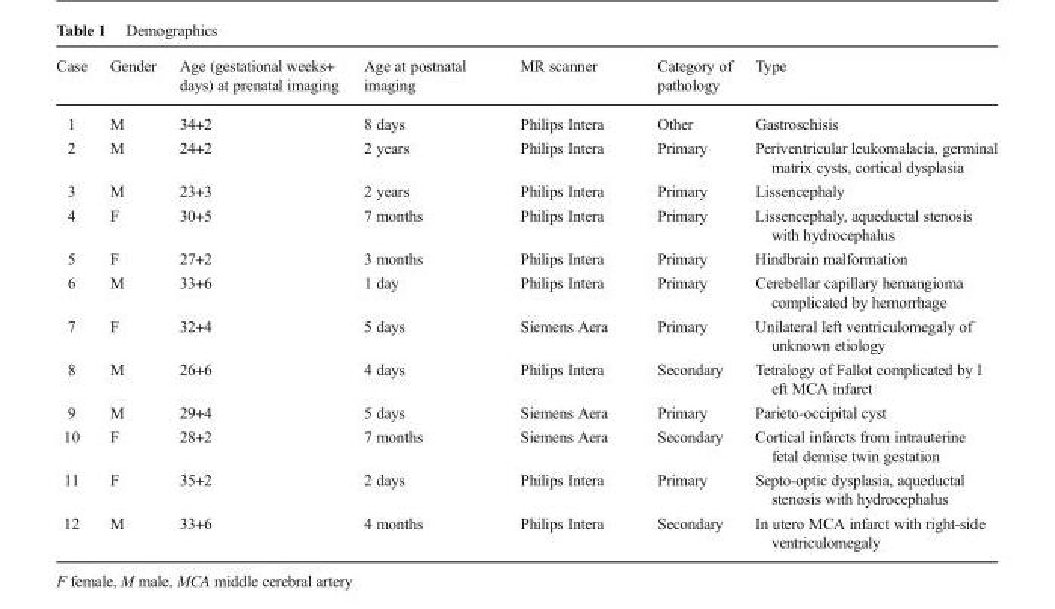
<table><thead><tr><td>Case</td><td>Gender</td><td>Age (gestational weeks+ days) at prenatal imaging</td><td>Age at postnatal imaging</td><td>MR scanner</td><td>Category of pathology</td><td>Type</td></tr></thead><tbody><tr><td>1</td><td>M</td><td>34+2</td><td>8 days</td><td>Philips Intera</td><td>Other</td><td>Gastroschisis</td></tr><tr><td>2</td><td>M</td><td>24+2</td><td>2 years</td><td>Philips Intera</td><td>Primary</td><td>Periventricular leukomalacia, germinal matrix cysts, cortical dysplasia</td></tr><tr><td>3</td><td>M</td><td>23+3</td><td>2 years</td><td>Philips Intera</td><td>Primary</td><td>Lissencephaly</td></tr><tr><td>4</td><td>F</td><td>30+5</td><td>7 months</td><td>Philips Intera</td><td>Primary</td><td>Lissencephaly, aqueductal stenosis with hydrocephalus</td></tr><tr><td>5</td><td>F</td><td>27+2</td><td>3 months</td><td>Philips Intera</td><td>Primary</td><td>Hindbrain malformation</td></tr><tr><td>6</td><td>M</td><td>33+6</td><td>1 day</td><td>Philips Intera</td><td>Primary</td><td>Cerebellar capillary hemangioma complicated by hemorrhage</td></tr><tr><td>7</td><td>F</td><td>32+4</td><td>5 days</td><td>Siemens Aera</td><td>Primary</td><td>Unilateral left ventriculomegaly of unknown etiology</td></tr><tr><td>8</td><td>M</td><td>26+6</td><td>4 days</td><td>Philips Intera</td><td>Secondary</td><td>Tetralogy of Fallot complicated by l eft MCA infarct</td></tr><tr><td>9</td><td>M</td><td>29+4</td><td>5 days</td><td>Siemens Aera</td><td>Primary</td><td>Parieto-occipital cyst</td></tr><tr><td>10</td><td>F</td><td>28+2</td><td>7 months</td><td>Siemens Aera</td><td>Secondary</td><td>Cortical infarcts from intrauterine fetal demise twin gestation</td></tr><tr><td>11</td><td>F</td><td>35+2</td><td>2 days</td><td>Philips Intera</td><td>Primary</td><td>Septo-optic dysplasia, aqueductal stenosis with hydrocephalus</td></tr><tr><td>12</td><td>M</td><td>33+6</td><td>4 months</td><td>Philips Intera</td><td>Secondary</td><td>In utero MCA infarct with right-side ventriculomegaly</td></tr></tbody></table>